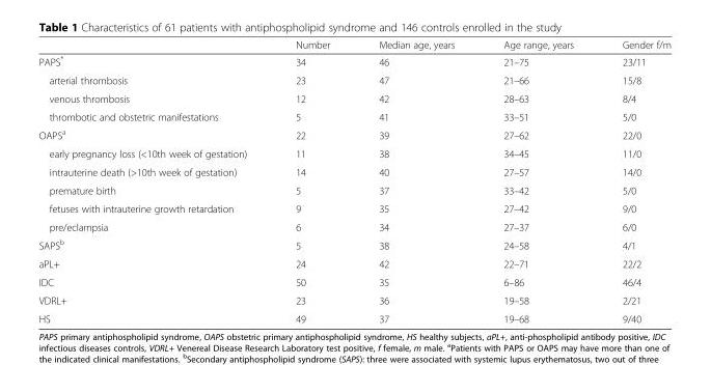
<table><thead><tr><td></td><td>Number</td><td>Median age, years</td><td>Age range, years</td><td>Gender f/m</td></tr></thead><tbody><tr><td>PAPS*</td><td>34</td><td>46</td><td>21–75</td><td>23/11</td></tr><tr><td>arterial thrombosis</td><td>23</td><td>47</td><td>21–66</td><td>15/8</td></tr><tr><td>venous thrombosis</td><td>12</td><td>42</td><td>28–63</td><td>8/4</td></tr><tr><td>thrombotic and obstetric manifestations</td><td>5</td><td>41</td><td>33–51</td><td>5/0</td></tr><tr><td>OAPS<sup>a</sup></td><td>22</td><td>39</td><td>27–62</td><td>22/0</td></tr><tr><td>early pregnancy loss (&lt;10th week of gestation)</td><td>11</td><td>38</td><td>34–45</td><td>11/0</td></tr><tr><td>intrauterine death (&gt;10th week of gestation)</td><td>14</td><td>40</td><td>27–57</td><td>14/0</td></tr><tr><td>premature birth</td><td>5</td><td>37</td><td>33–42</td><td>5/0</td></tr><tr><td>fetuses with intrauterine growth retardation</td><td>9</td><td>35</td><td>27–42</td><td>9/0</td></tr><tr><td>pre/eclampsia</td><td>6</td><td>34</td><td>27–37</td><td>6/0</td></tr><tr><td>SAPS<sup>b</sup></td><td>5</td><td>38</td><td>24–58</td><td>4/1</td></tr><tr><td>aPL+</td><td>24</td><td>42</td><td>22–71</td><td>22/2</td></tr><tr><td>IDC</td><td>50</td><td>35</td><td>6–86</td><td>46/4</td></tr><tr><td>VDRL+</td><td>23</td><td>36</td><td>19–58</td><td>2/21</td></tr><tr><td>HS</td><td>49</td><td>37</td><td>19–68</td><td>9/40</td></tr></tbody></table>